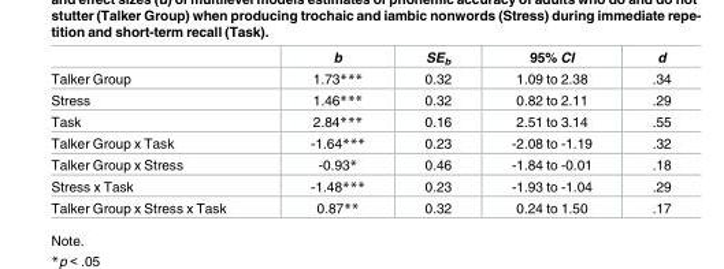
<table><thead><tr><td></td><td>b</td><td>SE<sub>b</sub></td><td>95% CI</td><td>d</td></tr></thead><tbody><tr><td>Talker Group</td><td>1.73***</td><td>0.32</td><td>1.09 to 2.38</td><td>.34</td></tr><tr><td>Stress</td><td>1.46***</td><td>0.32</td><td>0.82 to 2.11</td><td>.29</td></tr><tr><td>Task</td><td>2.84***</td><td>0.16</td><td>2.51 to 3.14</td><td>.55</td></tr><tr><td>Talker Group x Task</td><td>-1.64***</td><td>0.23</td><td>-2.08 to -1.19</td><td>.32</td></tr><tr><td>Talker Group x Stress</td><td>-0.93*</td><td>0.46</td><td>-1.84 to -0.01</td><td>.18</td></tr><tr><td>Stress x Task</td><td>-1.48***</td><td>0.23</td><td>-1.93 to -1.04</td><td>.29</td></tr><tr><td>Talker Group x Stress x Task</td><td>0.87**</td><td>0.32</td><td>0.24 to 1.50</td><td>.17</td></tr></tbody></table>